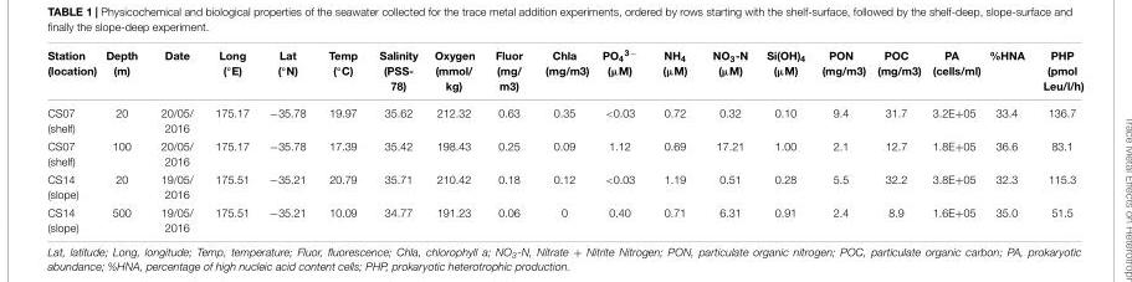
<table><thead><tr><td>Station (location)</td><td>Depth (m)</td><td>Date</td><td>Long (◦E)</td><td>Lat (◦N)</td><td>Temp (◦C)</td><td>Salinity (PSS- 78)</td><td>Oxygen (mmol/ kg)</td><td>Fluor (mg/ m3)</td><td>Chla (mg/m3)</td><td>PO<sub>4</sub><sup>3−</sup> (µM)</td><td>NH<sub>4</sub> (µM)</td><td>NO<sub>3</sub>-N (µM)</td><td>Si(OH)<sub>4</sub> (µM)</td><td>PON (mg/m3)</td><td>POC (mg/m3)</td><td>PA (cells/ml)</td><td>%HNA</td><td>PHP (pmol Leu/l/h)</td></tr></thead><tbody><tr><td>CS07 (shelf)</td><td>20</td><td>20/05/ 2016</td><td>175.17</td><td>−35.78</td><td>19.97</td><td>35.62</td><td>212.32</td><td>0.63</td><td>0.35</td><td>&lt;0.03</td><td>0.72</td><td>0.32</td><td>0.10</td><td>9.4</td><td>31.7</td><td>3.2E+05</td><td>33.4</td><td>136.7</td></tr><tr><td>CS07 (shelf)</td><td>100</td><td>20/05/ 2016</td><td>175.17</td><td>−35.78</td><td>17.39</td><td>35.42</td><td>198.43</td><td>0.25</td><td>0.09</td><td>1.12</td><td>0.69</td><td>17.21</td><td>1.00</td><td>2.1</td><td>12.7</td><td>1.8E+05</td><td>36.6</td><td>83.1</td></tr><tr><td>CS14 (slope)</td><td>20</td><td>19/05/ 2016</td><td>175.51</td><td>−35.21</td><td>20.79</td><td>35.71</td><td>210.42</td><td>0.18</td><td>0.12</td><td>&lt;0.03</td><td>1.19</td><td>0.51</td><td>0.28</td><td>5.5</td><td>32.2</td><td>3.8E+05</td><td>32.3</td><td>115.3</td></tr><tr><td>CS14 (slope)</td><td>500</td><td>19/05/ 2016</td><td>175.51</td><td>−35.21</td><td>10.09</td><td>34.77</td><td>191.23</td><td>0.06</td><td>0</td><td>0.40</td><td>0.71</td><td>6.31</td><td>0.91</td><td>2.4</td><td>8.9</td><td>1.6E+05</td><td>35.0</td><td>51.5</td></tr></tbody></table>